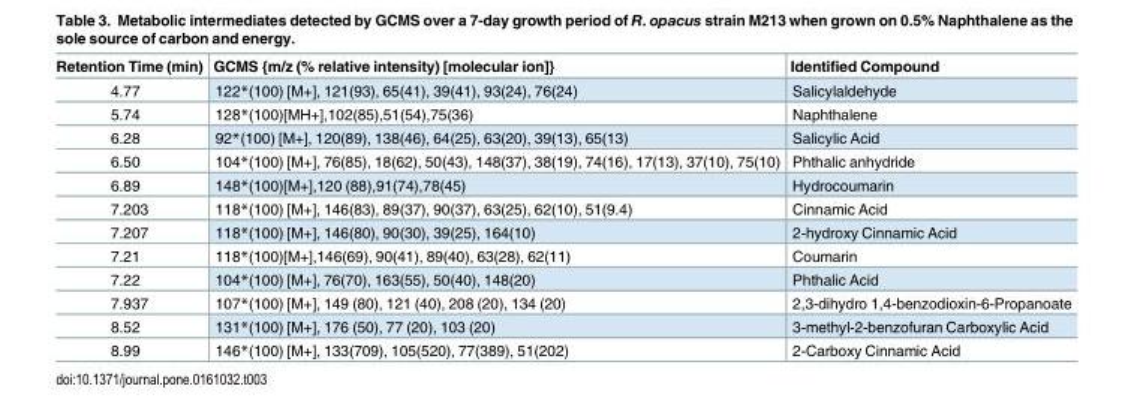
<table><thead><tr><td>Retention Time (min)</td><td>GCMS {m/z (% relative intensity) [molecular ion]}</td><td>Identified Compound</td></tr></thead><tbody><tr><td>4.77</td><td>122*(100) [M+], 121(93), 65(41), 39(41), 93(24), 76(24)</td><td>Salicylaldehyde</td></tr><tr><td>5.74</td><td>128*(100)[MH+],102(85),51(54),75(36)</td><td>Naphthalene</td></tr><tr><td>6.28</td><td>92*(100) [M+], 120(89), 138(46), 64(25), 63(20), 39(13), 65(13)</td><td>Salicylic Acid</td></tr><tr><td>6.50</td><td>104*(100) [M+], 76(85), 18(62), 50(43), 148(37), 38(19), 74(16), 17(13), 37(10), 75(10)</td><td>Phthalic anhydride</td></tr><tr><td>6.89</td><td>148*(100)[M+],120 (88),91(74),78(45)</td><td>Hydrocoumarin</td></tr><tr><td>7.203</td><td>118*(100) [M+], 146(83), 89(37), 90(37), 63(25), 62(10), 51(9.4)</td><td>Cinnamic Acid</td></tr><tr><td>7.207</td><td>118*(100) [M+], 146(80), 90(30), 39(25), 164(10)</td><td>2-hydroxy Cinnamic Acid</td></tr><tr><td>7.21</td><td>118*(100)[M+],146(69), 90(41), 89(40), 63(28), 62(11)</td><td>Coumarin</td></tr><tr><td>7.22</td><td>104*(100) [M+], 76(70), 163(55), 50(40), 148(20)</td><td>Phthalic Acid</td></tr><tr><td>7.937</td><td>107*(100) [M+], 149 (80), 121 (40), 208 (20), 134 (20)</td><td>2,3-dihydro 1,4-benzodioxin-6-Propanoate</td></tr><tr><td>8.52</td><td>131*(100) [M+], 176 (50), 77 (20), 103 (20)</td><td>3-methyl-2-benzofuran Carboxylic Acid</td></tr><tr><td>8.99</td><td>146*(100) [M+], 133(709), 105(520), 77(389), 51(202)</td><td>2-Carboxy Cinnamic Acid</td></tr></tbody></table>